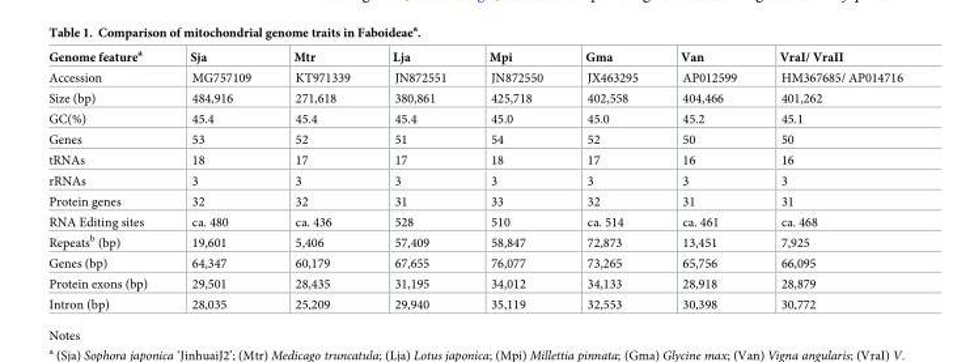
<table><thead><tr><td>Genome feature<sup>a</sup></td><td>Sja</td><td>Mtr</td><td>Lja</td><td>Mpi</td><td>Gma</td><td>Van</td><td>VraI/ VraII</td></tr></thead><tbody><tr><td>Accession</td><td>MG757109</td><td>KT971339</td><td>JN872551</td><td>JN872550</td><td>JX463295</td><td>AP012599</td><td>HM367685/ AP014716</td></tr><tr><td>Size (bp)</td><td>484,916</td><td>271,618</td><td>380,861</td><td>425,718</td><td>402,558</td><td>404,466</td><td>401,262</td></tr><tr><td>GC(%)</td><td>45.4</td><td>45.4</td><td>45.4</td><td>45.0</td><td>45.0</td><td>45.2</td><td>45.1</td></tr><tr><td>Genes</td><td>53</td><td>52</td><td>51</td><td>54</td><td>52</td><td>50</td><td>50</td></tr><tr><td>tRNAs</td><td>18</td><td>17</td><td>17</td><td>18</td><td>17</td><td>16</td><td>16</td></tr><tr><td>rRNAs</td><td>3</td><td>3</td><td>3</td><td>3</td><td>3</td><td>3</td><td>3</td></tr><tr><td>Protein genes</td><td>32</td><td>32</td><td>31</td><td>33</td><td>32</td><td>31</td><td>31</td></tr><tr><td>RNA Editing sites</td><td>ca. 480</td><td>ca. 436</td><td>528</td><td>510</td><td>ca. 514</td><td>ca. 461</td><td>ca. 468</td></tr><tr><td>Repeats<sup>b</sup> (bp)</td><td>19,601</td><td>5,406</td><td>57,409</td><td>58,847</td><td>72,873</td><td>13,451</td><td>7,925</td></tr><tr><td>Genes (bp)</td><td>64,347</td><td>60,179</td><td>67,655</td><td>76,077</td><td>73,265</td><td>65,756</td><td>66,095</td></tr><tr><td>Protein exons (bp)</td><td>29,501</td><td>28,435</td><td>31,195</td><td>34,012</td><td>34,133</td><td>28,918</td><td>28,879</td></tr><tr><td>Intron (bp)</td><td>28,035</td><td>25,209</td><td>29,940</td><td>35,119</td><td>32,553</td><td>30,398</td><td>30,772</td></tr></tbody></table>